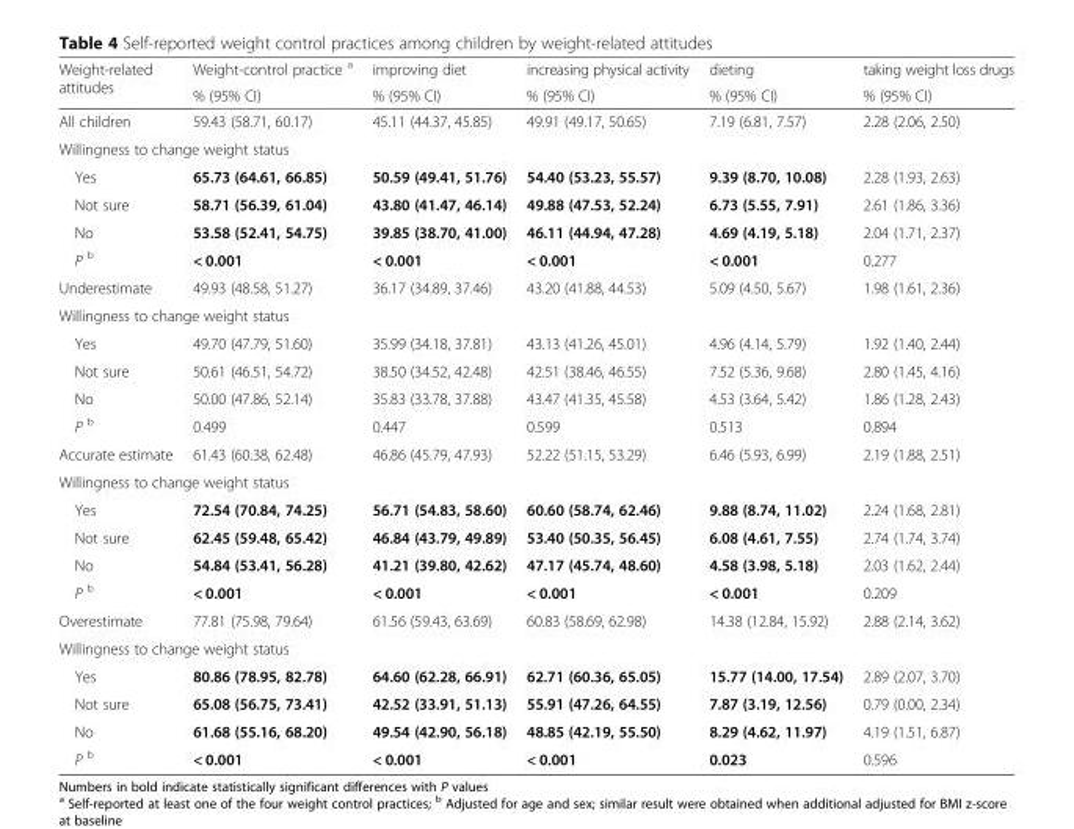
<table><thead><tr><td rowspan="2">Weight-related attitudes</td><td rowspan="2">Weight-control practice <sup>a</sup> % (95% CI)</td><td rowspan="2">improving diet % (95% CI)</td><td rowspan="2">increasing physical activity % (95% CI)</td><td rowspan="2">dieting % (95% CI)</td><td rowspan="2">taking weight loss drugs % (95% CI)</td></tr><tr></tr></thead><tbody><tr><td>All children</td><td>59.43 (58.71, 60.17)</td><td>45.11 (44.37, 45.85)</td><td>49.91 (49.17, 50.65)</td><td>7.19 (6.81, 7.57)</td><td>2.28 (2.06, 2.50)</td></tr><tr><td colspan="6">Willingness to change weight status</td></tr><tr><td>Yes</td><td>65.73 (64.61, 66.85)</td><td>50.59 (49.41, 51.76)</td><td>54.40 (53.23, 55.57)</td><td>9.39 (8.70, 10.08)</td><td>2.28 (1.93, 2.63)</td></tr><tr><td>Not sure</td><td>58.71 (56.39, 61.04)</td><td>43.80 (41.47, 46.14)</td><td>49.88 (47.53, 52.24)</td><td>6.73 (5.55, 7.91)</td><td>2.61 (1.86, 3.36)</td></tr><tr><td>No</td><td>53.58 (52.41, 54.75)</td><td>39.85 (38.70, 41.00)</td><td>46.11 (44.94, 47.28)</td><td>4.69 (4.19, 5.18)</td><td>2.04 (1.71, 2.37)</td></tr><tr><td>P <sup>b</sup></td><td>&lt; 0.001</td><td>&lt; 0.001</td><td>&lt; 0.001</td><td>&lt; 0.001</td><td>0.277</td></tr><tr><td>Underestimate</td><td>49.93 (48.58, 51.27)</td><td>36.17 (34.89, 37.46)</td><td>43.20 (41.88, 44.53)</td><td>5.09 (4.50, 5.67)</td><td>1.98 (1.61, 2.36)</td></tr><tr><td colspan="6">Willingness to change weight status</td></tr><tr><td>Yes</td><td>49.70 (47.79, 51.60)</td><td>35.99 (34.18, 37.81)</td><td>43.13 (41.26, 45.01)</td><td>4.96 (4.14, 5.79)</td><td>1.92 (1.40, 2.44)</td></tr><tr><td>Not sure</td><td>50.61 (46.51, 54.72)</td><td>38.50 (34.52, 42.48)</td><td>42.51 (38.46, 46.55)</td><td>7.52 (5.36, 9.68)</td><td>2.80 (1.45, 4.16)</td></tr><tr><td>No</td><td>50.00 (47.86, 52.14)</td><td>35.83 (33.78, 37.88)</td><td>43.47 (41.35, 45.58)</td><td>4.53 (3.64, 5.42)</td><td>1.86 (1.28, 2.43)</td></tr><tr><td>P <sup>b</sup></td><td>0.499</td><td>0.447</td><td>0.599</td><td>0.513</td><td>0.894</td></tr><tr><td>Accurate estimate</td><td>61.43 (60.38, 62.48)</td><td>46.86 (45.79, 47.93)</td><td>52.22 (51.15, 53.29)</td><td>6.46 (5.93, 6.99)</td><td>2.19 (1.88, 2.51)</td></tr><tr><td colspan="6">Willingness to change weight status</td></tr><tr><td>Yes</td><td>72.54 (70.84, 74.25)</td><td>56.71 (54.83, 58.60)</td><td>60.60 (58.74, 62.46)</td><td>9.88 (8.74, 11.02)</td><td>2.24 (1.68, 2.81)</td></tr><tr><td>Not sure</td><td>62.45 (59.48, 65.42)</td><td>46.84 (43.79, 49.89)</td><td>53.40 (50.35, 56.45)</td><td>6.08 (4.61, 7.55)</td><td>2.74 (1.74, 3.74)</td></tr><tr><td>No</td><td>54.84 (53.41, 56.28)</td><td>41.21 (39.80, 42.62)</td><td>47.17 (45.74, 48.60)</td><td>4.58 (3.98, 5.18)</td><td>2.03 (1.62, 2.44)</td></tr><tr><td>P <sup>b</sup></td><td>&lt; 0.001</td><td>&lt; 0.001</td><td>&lt; 0.001</td><td>&lt; 0.001</td><td>0.209</td></tr><tr><td>Overestimate</td><td>77.81 (75.98, 79.64)</td><td>61.56 (59.43, 63.69)</td><td>60.83 (58.69, 62.98)</td><td>14.38 (12.84, 15.92)</td><td>2.88 (2.14, 3.62)</td></tr><tr><td colspan="6">Willingness to change weight status</td></tr><tr><td>Yes</td><td>80.86 (78.95, 82.78)</td><td>64.60 (62.28, 66.91)</td><td>62.71 (60.36, 65.05)</td><td>15.77 (14.00, 17.54)</td><td>2.89 (2.07, 3.70)</td></tr><tr><td>Not sure</td><td>65.08 (56.75, 73.41)</td><td>42.52 (33.91, 51.13)</td><td>55.91 (47.26, 64.55)</td><td>7.87 (3.19, 12.56)</td><td>0.79 (0.00, 2.34)</td></tr><tr><td>No</td><td>61.68 (55.16, 68.20)</td><td>49.54 (42.90, 56.18)</td><td>48.85 (42.19, 55.50)</td><td>8.29 (4.62, 11.97)</td><td>4.19 (1.51, 6.87)</td></tr><tr><td>P <sup>b</sup></td><td>&lt; 0.001</td><td>&lt; 0.001</td><td>&lt; 0.001</td><td>0.023</td><td>0.596</td></tr></tbody></table>